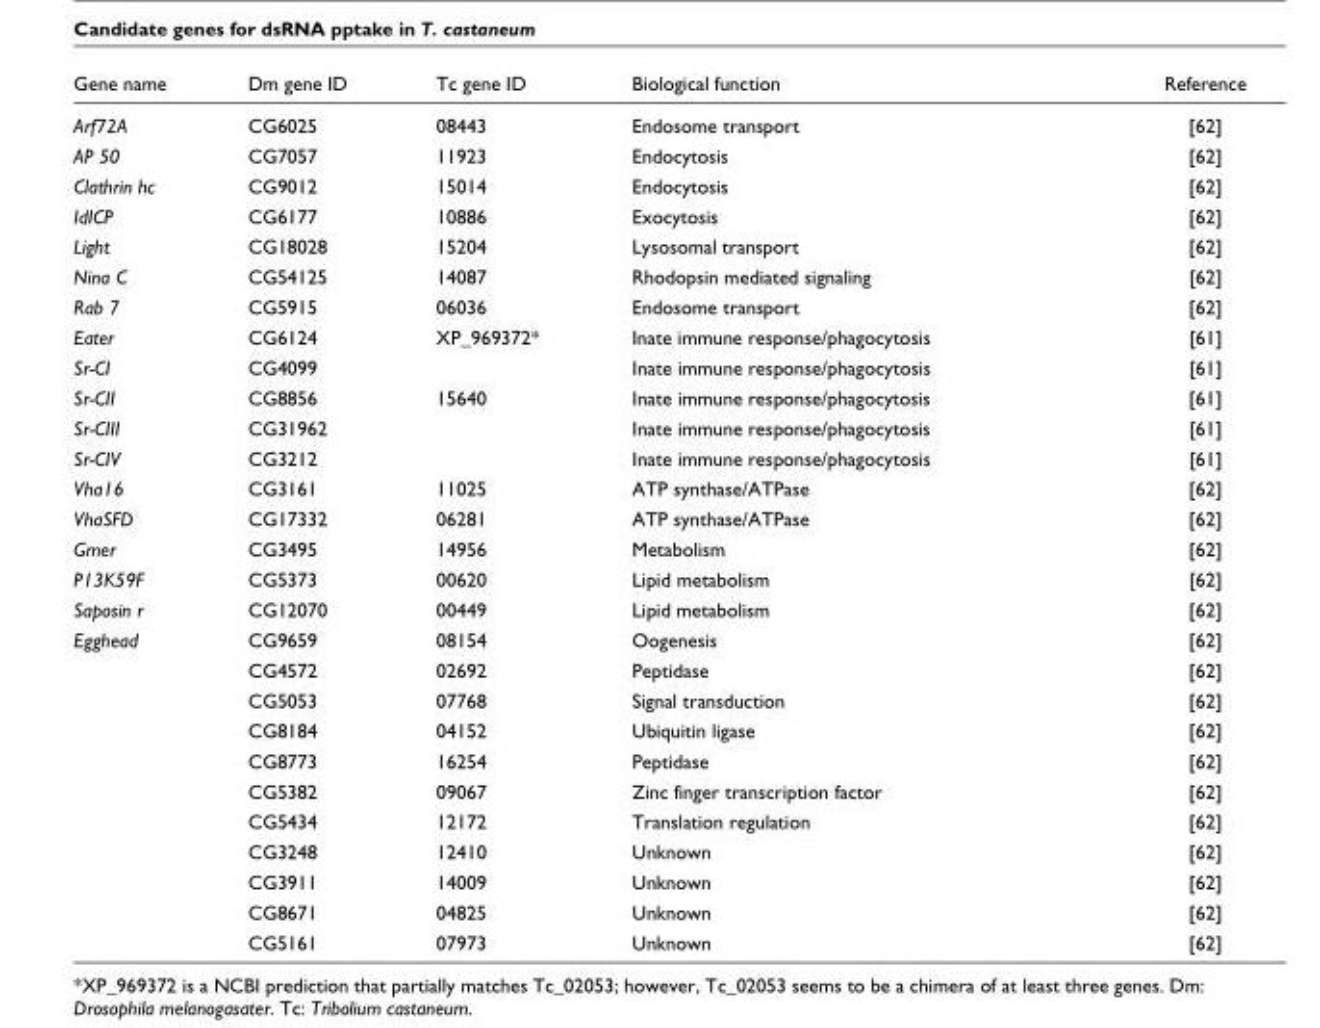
<table><thead><tr><td>Gene name</td><td>Dm gene ID</td><td>Tc gene ID</td><td>Biological function</td><td>Reference</td></tr></thead><tbody><tr><td>Arf72A</td><td>CG6025</td><td>08443</td><td>Endosome transport</td><td>[62]</td></tr><tr><td>AP 50</td><td>CG7057</td><td>11923</td><td>Endocytosis</td><td>[62]</td></tr><tr><td>Clathrin hc</td><td>CG9012</td><td>15014</td><td>Endocytosis</td><td>[62]</td></tr><tr><td>IdICP</td><td>CG6177</td><td>10886</td><td>Exocytosis</td><td>[62]</td></tr><tr><td>Light</td><td>CG18028</td><td>15204</td><td>Lysosomal transport</td><td>[62]</td></tr><tr><td>Nina C</td><td>CG54125</td><td>14087</td><td>Rhodopsin mediated signaling</td><td>[62]</td></tr><tr><td>Rab 7</td><td>CG5915</td><td>06036</td><td>Endosome transport</td><td>[62]</td></tr><tr><td>Eater</td><td>CG6124</td><td>XP_969372*</td><td>Inate immune response/phagocytosis</td><td>[61]</td></tr><tr><td>Sr-CI</td><td>CG4099</td><td></td><td>Inate immune response/phagocytosis</td><td>[61]</td></tr><tr><td>Sr-CII</td><td>CG8856</td><td>15640</td><td>Inate immune response/phagocytosis</td><td>[61]</td></tr><tr><td>Sr-CIII</td><td>CG31962</td><td></td><td>Inate immune response/phagocytosis</td><td>[61]</td></tr><tr><td>Sr-CIV</td><td>CG3212</td><td></td><td>Inate immune response/phagocytosis</td><td>[61]</td></tr><tr><td>Vha16</td><td>CG3161</td><td>11025</td><td>ATP synthase/ATPase</td><td>[62]</td></tr><tr><td>VhaSFD</td><td>CG17332</td><td>06281</td><td>ATP synthase/ATPase</td><td>[62]</td></tr><tr><td>Gmer</td><td>CG3495</td><td>14956</td><td>Metabolism</td><td>[62]</td></tr><tr><td>P13K59F</td><td>CG5373</td><td>00620</td><td>Lipid metabolism</td><td>[62]</td></tr><tr><td>Saposin r</td><td>CG12070</td><td>00449</td><td>Lipid metabolism</td><td>[62]</td></tr><tr><td rowspan="11">Egghead</td><td>CG9659</td><td>08154</td><td>Oogenesis</td><td>[62]</td></tr><tr><td>CG4572</td><td>02692</td><td>Peptidase</td><td>[62]</td></tr><tr><td>CG5053</td><td>07768</td><td>Signal transduction</td><td>[62]</td></tr><tr><td>CG8184</td><td>04152</td><td>Ubiquitin ligase</td><td>[62]</td></tr><tr><td>CG8773</td><td>16254</td><td>Peptidase</td><td>[62]</td></tr><tr><td>CG5382</td><td>09067</td><td>Zinc finger transcription factor</td><td>[62]</td></tr><tr><td>CG5434</td><td>12172</td><td>Translation regulation</td><td>[62]</td></tr><tr><td>CG3248</td><td>12410</td><td>Unknown</td><td>[62]</td></tr><tr><td>CG3911</td><td>14009</td><td>Unknown</td><td>[62]</td></tr><tr><td>CG8671</td><td>04825</td><td>Unknown</td><td>[62]</td></tr><tr><td>CG5161</td><td>07973</td><td>Unknown</td><td>[62]</td></tr></tbody></table>